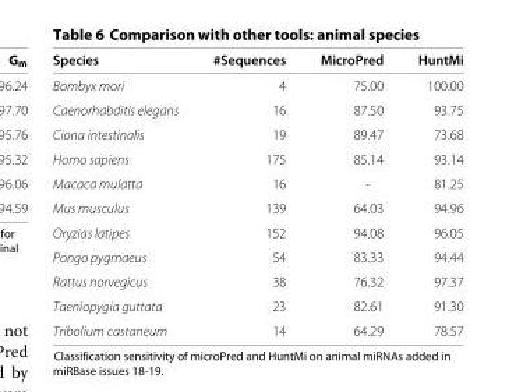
<table><thead><tr><td>Species</td><td>#Sequences</td><td>MicroPred</td><td>HuntMi</td></tr></thead><tbody><tr><td>Bombyx mori</td><td>4</td><td>75.00</td><td>100.00</td></tr><tr><td>Caenorhabditis elegans</td><td>16</td><td>87.50</td><td>93.75</td></tr><tr><td>Ciona intestinalis</td><td>19</td><td>89.47</td><td>73.68</td></tr><tr><td>Homo sapiens</td><td>175</td><td>85.14</td><td>93.14</td></tr><tr><td>Macaca mulatta</td><td>16</td><td>-</td><td>81.25</td></tr><tr><td>Mus musculus</td><td>139</td><td>64.03</td><td>94.96</td></tr><tr><td>Oryzias latipes</td><td>152</td><td>94.08</td><td>96.05</td></tr><tr><td>Pongo pygmaeus</td><td>54</td><td>83.33</td><td>94.44</td></tr><tr><td>Rattus norvegicus</td><td>38</td><td>76.32</td><td>97.37</td></tr><tr><td>Taeniopygia guttata</td><td>23</td><td>82.61</td><td>91.30</td></tr><tr><td>Tribolium castaneum</td><td>14</td><td>64.29</td><td>78.57</td></tr></tbody></table>